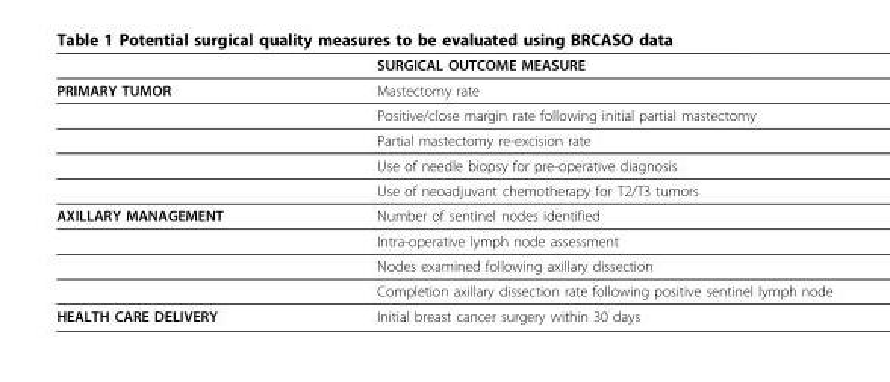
<table><thead><tr><td></td><td>SURGICAL OUTCOME MEASURE</td></tr></thead><tbody><tr><td rowspan="5">PRIMARY TUMOR</td><td>Mastectomy rate</td></tr><tr><td>Positive/close margin rate following initial partial mastectomy</td></tr><tr><td>Partial mastectomy re-excision rate</td></tr><tr><td>Use of needle biopsy for pre-operative diagnosis</td></tr><tr><td>Use of neoadjuvant chemotherapy for T2/T3 tumors</td></tr><tr><td rowspan="4">AXILLARY MANAGEMENT</td><td>Number of sentinel nodes identified</td></tr><tr><td>Intra-operative lymph node assessment</td></tr><tr><td>Nodes examined following axillary dissection</td></tr><tr><td>Completion axillary dissection rate following positive sentinel lymph node</td></tr><tr><td>HEALTH CARE DELIVERY</td><td>Initial breast cancer surgery within 30 days</td></tr></tbody></table>